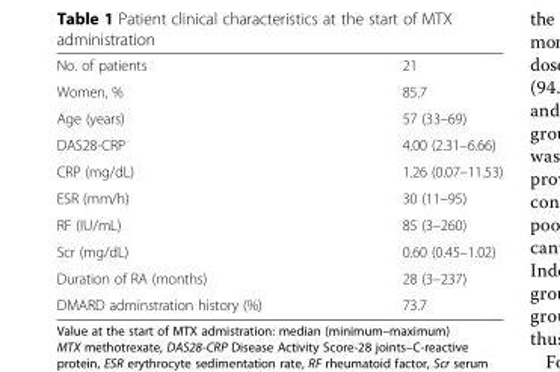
<table><tbody><tr><td>No. of patients</td><td>21</td></tr><tr><td>Women, %</td><td>85.7</td></tr><tr><td>Age (years)</td><td>57 (33–69)</td></tr><tr><td>DAS28-CRP</td><td>4.00 (2.31–6.66)</td></tr><tr><td>CRP (mg/dL)</td><td>1.26 (0.07–11.53)</td></tr><tr><td>ESR (mm/h)</td><td>30 (11–95)</td></tr><tr><td>RF (IU/mL)</td><td>85 (3–260)</td></tr><tr><td>Scr (mg/dL)</td><td>0.60 (0.45–1.02)</td></tr><tr><td>Duration of RA (months)</td><td>28 (3–237)</td></tr><tr><td>DMARD adminstration history (%)</td><td>73.7</td></tr></tbody></table>